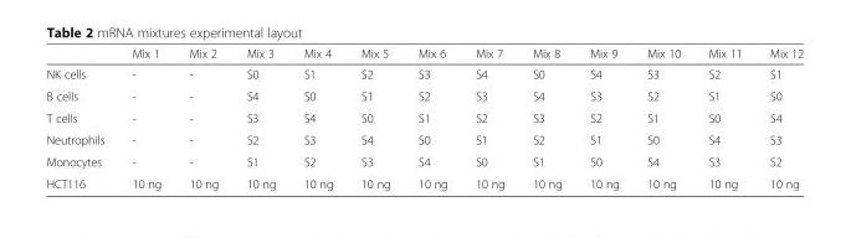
<table><thead><tr><td></td><td>Mix 1</td><td>Mix 2</td><td>Mix 3</td><td>Mix 4</td><td>Mix 5</td><td>Mix 6</td><td>Mix 7</td><td>Mix 8</td><td>Mix 9</td><td>Mix 10</td><td>Mix 11</td><td>Mix 12</td></tr></thead><tbody><tr><td>NK cells</td><td>-</td><td>-</td><td>S0</td><td>S1</td><td>S2</td><td>S3</td><td>S4</td><td>S0</td><td>S4</td><td>S3</td><td>S2</td><td>S1</td></tr><tr><td>B cells</td><td>-</td><td>-</td><td>S4</td><td>S0</td><td>S1</td><td>S2</td><td>S3</td><td>S4</td><td>S3</td><td>S2</td><td>S1</td><td>S0</td></tr><tr><td>T cells</td><td>-</td><td>-</td><td>S3</td><td>S4</td><td>S0</td><td>S1</td><td>S2</td><td>S3</td><td>S2</td><td>S1</td><td>S0</td><td>S4</td></tr><tr><td>Neutrophils</td><td>-</td><td>-</td><td>S2</td><td>S3</td><td>S4</td><td>S0</td><td>S1</td><td>S2</td><td>S1</td><td>S0</td><td>S4</td><td>S3</td></tr><tr><td>Monocytes</td><td>-</td><td>-</td><td>S1</td><td>S2</td><td>S3</td><td>S4</td><td>S0</td><td>S1</td><td>S0</td><td>S4</td><td>S3</td><td>S2</td></tr><tr><td>HCT116</td><td>10 ng</td><td>10 ng</td><td>10 ng</td><td>10 ng</td><td>10 ng</td><td>10 ng</td><td>10 ng</td><td>10 ng</td><td>10 ng</td><td>10 ng</td><td>10 ng</td><td>10 ng</td></tr></tbody></table>